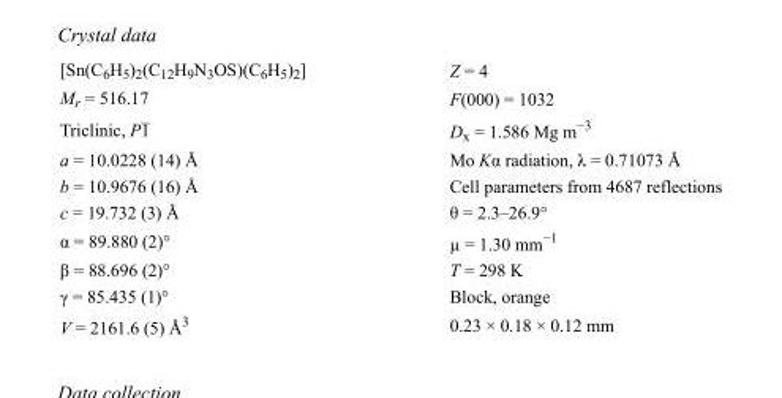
<table><tbody><tr><td>[Sn(C<sub>6</sub>H<sub>5</sub>)<sub>2</sub>(C<sub>12</sub>H<sub>9</sub>N<sub>3</sub>OS)(C<sub>6</sub>H<sub>5</sub>)<sub>2</sub>]</td><td>Z = 4</td></tr><tr><td>M<sub>r</sub> = 516.17</td><td>F(000) = 1032</td></tr><tr><td>Triclinic, P1</td><td>D<sub>x</sub> = 1.586 Mg m<sup>−3</sup></td></tr><tr><td>a = 10.0228 (14) Å</td><td>Mo Kα radiation, λ = 0.71073 Å</td></tr><tr><td>b = 10.9676 (16) Å</td><td>Cell parameters from 4687 reflections</td></tr><tr><td>c = 19.732 (3) Å</td><td>θ = 2.3–26.9°</td></tr><tr><td>α = 89.880 (2)°</td><td>µ = 1.30 mm<sup>−1</sup></td></tr><tr><td>β = 88.696 (2)°</td><td>T = 298 K</td></tr><tr><td>γ = 85.435 (1)°</td><td>Block, orange</td></tr><tr><td>V = 2161.6 (5) Å<sup>3</sup></td><td>0.23 × 0.18 × 0.12 mm</td></tr></tbody></table>